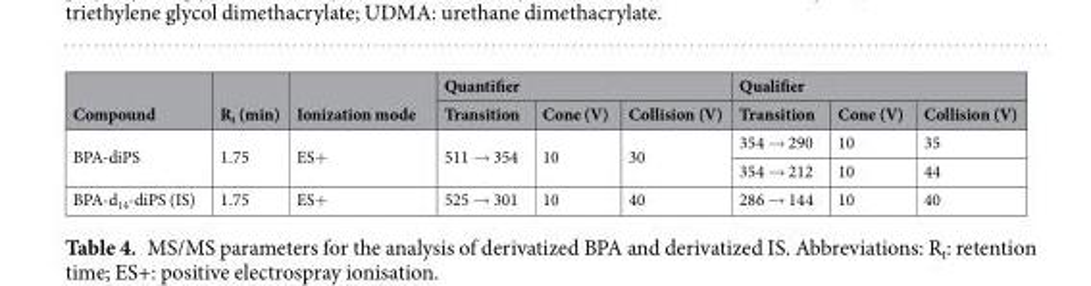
<table><thead><tr><td rowspan="2">Compound</td><td rowspan="2">R<sub>t</sub> (min)</td><td rowspan="2">Ionization mode</td><td colspan="3">Quantifier</td><td colspan="3">Qualifier</td></tr><tr><td>Transition</td><td>Cone (V)</td><td>Collision (V)</td><td>Transition</td><td>Cone (V)</td><td>Collision (V)</td></tr></thead><tbody><tr><td rowspan="2">BPA-diPS</td><td rowspan="2">1.75</td><td rowspan="2">ES+</td><td rowspan="2">511 → 354</td><td rowspan="2">10</td><td rowspan="2">30</td><td>354 → 290</td><td>10</td><td>35</td></tr><tr><td>354 → 212</td><td>10</td><td>44</td></tr><tr><td>BPA-d<sub>14</sub>-diPS (IS)</td><td>1.75</td><td>ES+</td><td>525 → 301</td><td>10</td><td>40</td><td>286 → 144</td><td>10</td><td>40</td></tr></tbody></table>